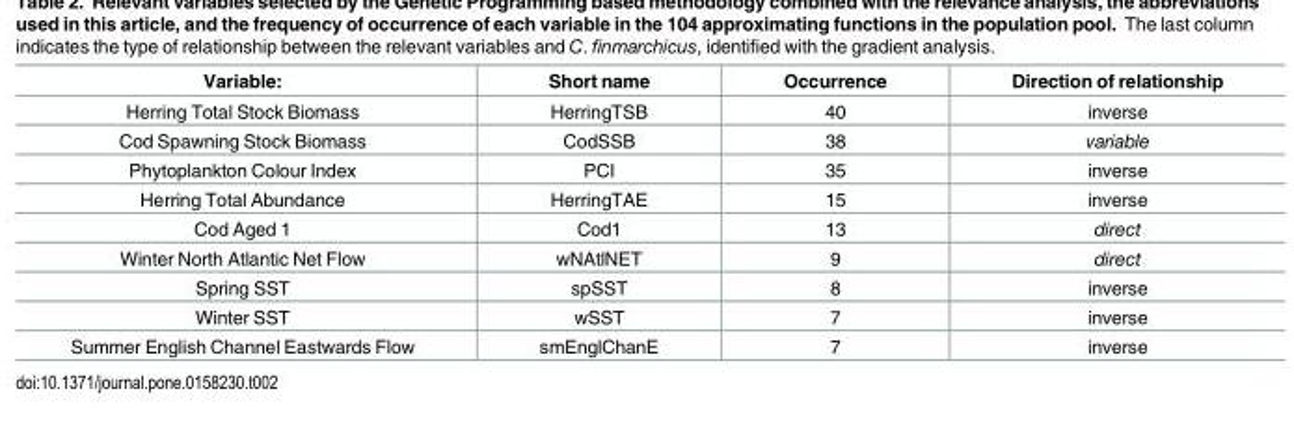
<table><thead><tr><td>Variable:</td><td>Short name</td><td>Occurrence</td><td>Direction of relationship</td></tr></thead><tbody><tr><td>Herring Total Stock Biomass</td><td>HerringTSB</td><td>40</td><td>inverse</td></tr><tr><td>Cod Spawning Stock Biomass</td><td>CodSSB</td><td>38</td><td>variable</td></tr><tr><td>Phytoplankton Colour Index</td><td>PCI</td><td>35</td><td>inverse</td></tr><tr><td>Herring Total Abundance</td><td>HerringTAE</td><td>15</td><td>inverse</td></tr><tr><td>Cod Aged 1</td><td>Cod1</td><td>13</td><td>direct</td></tr><tr><td>Winter North Atlantic Net Flow</td><td>wNAtlNET</td><td>9</td><td>direct</td></tr><tr><td>Spring SST</td><td>spSST</td><td>8</td><td>inverse</td></tr><tr><td>Winter SST</td><td>wSST</td><td>7</td><td>inverse</td></tr><tr><td>Summer English Channel Eastwards Flow</td><td>smEnglChanE</td><td>7</td><td>inverse</td></tr></tbody></table>